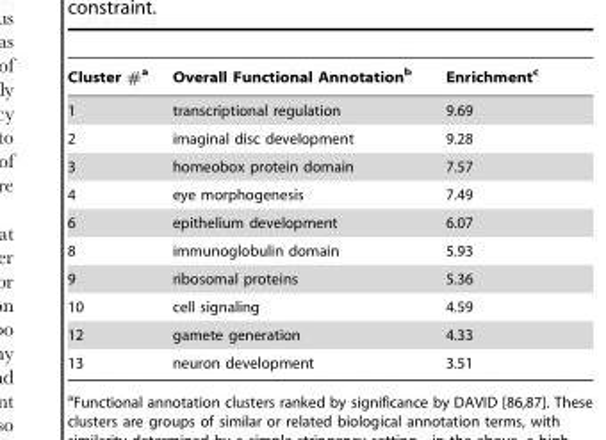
<table><thead><tr><td>Cluster #<sup>a</sup></td><td>Overall Functional Annotation<sup>b</sup></td><td>Enrichment<sup>c</sup></td></tr></thead><tbody><tr><td>1</td><td>transcriptional regulation</td><td>9.69</td></tr><tr><td>2</td><td>imaginal disc development</td><td>9.28</td></tr><tr><td>3</td><td>homeobox protein domain</td><td>7.57</td></tr><tr><td>4</td><td>eye morphogenesis</td><td>7.49</td></tr><tr><td>6</td><td>epithelium development</td><td>6.07</td></tr><tr><td>8</td><td>immunoglobulin domain</td><td>5.93</td></tr><tr><td>9</td><td>ribosomal proteins</td><td>5.36</td></tr><tr><td>10</td><td>cell signaling</td><td>4.59</td></tr><tr><td>12</td><td>gamete generation</td><td>4.33</td></tr><tr><td>13</td><td>neuron development</td><td>3.51</td></tr></tbody></table>